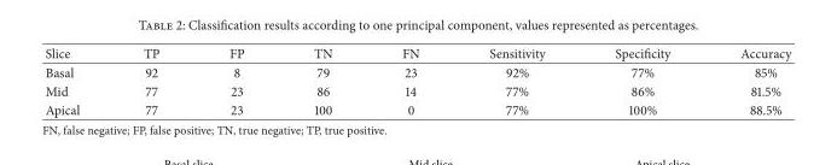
<table><thead><tr><td>Slice</td><td>TP</td><td>FP</td><td>TN</td><td>FN</td><td>Sensitivity</td><td>Specificity</td><td>Accuracy</td></tr></thead><tbody><tr><td>Basal</td><td>92</td><td>8</td><td>79</td><td>23</td><td>92%</td><td>77%</td><td>85%</td></tr><tr><td>Mid</td><td>77</td><td>23</td><td>86</td><td>14</td><td>77%</td><td>86%</td><td>81.5%</td></tr><tr><td>Apical</td><td>77</td><td>23</td><td>100</td><td>0</td><td>77%</td><td>100%</td><td>88.5%</td></tr></tbody></table>